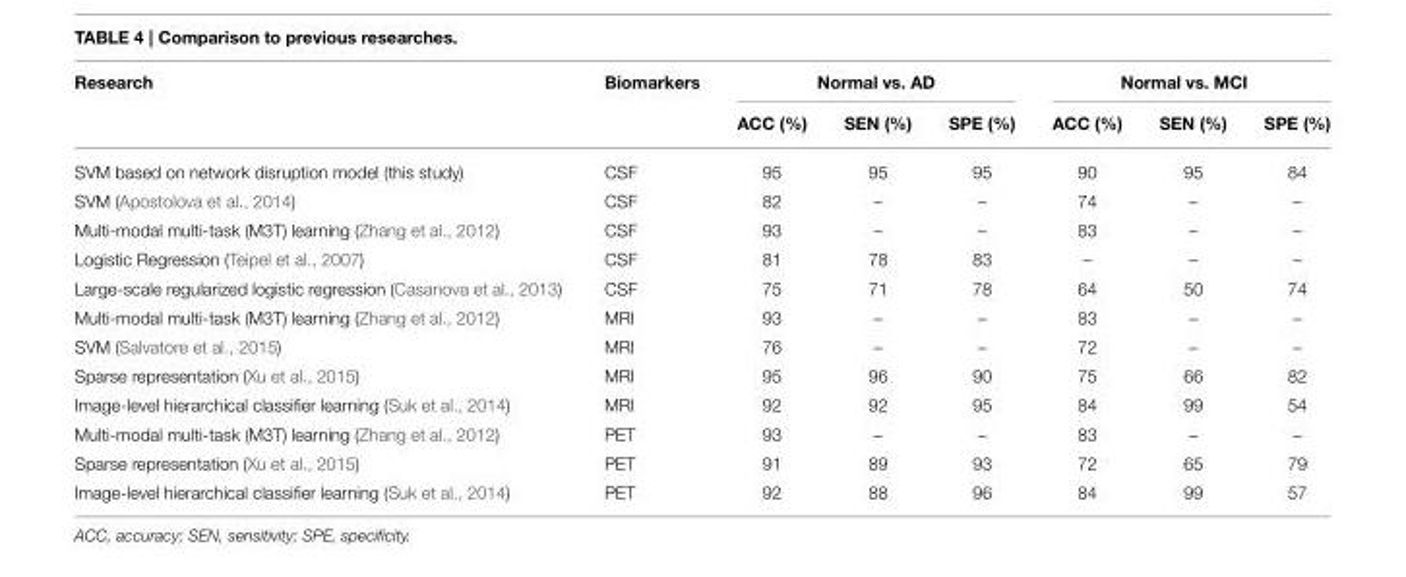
<table><thead><tr><td rowspan="2">Research</td><td rowspan="2">Biomarkers</td><td colspan="3">Normal vs. AD</td><td colspan="3">Normal vs. MCI</td></tr><tr><td>ACC (%)</td><td>SEN (%)</td><td>SPE (%)</td><td>ACC (%)</td><td>SEN (%)</td><td>SPE (%)</td></tr></thead><tbody><tr><td>SVM based on network disruption model (this study)</td><td>CSF</td><td>95</td><td>95</td><td>95</td><td>90</td><td>95</td><td>84</td></tr><tr><td>SVM (Apostolova et al., 2014)</td><td>CSF</td><td>82</td><td>–</td><td>–</td><td>74</td><td>–</td><td>–</td></tr><tr><td>Multi-modal multi-task (M3T) learning (Zhang et al., 2012)</td><td>CSF</td><td>93</td><td>–</td><td>–</td><td>83</td><td>–</td><td>–</td></tr><tr><td>Logistic Regression (Teipel et al., 2007)</td><td>CSF</td><td>81</td><td>78</td><td>83</td><td>–</td><td>–</td><td>–</td></tr><tr><td>Large-scale regularized logistic regression (Casanova et al., 2013)</td><td>CSF</td><td>75</td><td>71</td><td>78</td><td>64</td><td>50</td><td>74</td></tr><tr><td>Multi-modal multi-task (M3T) learning (Zhang et al., 2012)</td><td>MRI</td><td>93</td><td>–</td><td>–</td><td>83</td><td>–</td><td>–</td></tr><tr><td>SVM (Salvatore et al., 2015)</td><td>MRI</td><td>76</td><td>–</td><td>–</td><td>72</td><td>–</td><td>–</td></tr><tr><td>Sparse representation (Xu et al., 2015)</td><td>MRI</td><td>95</td><td>96</td><td>90</td><td>75</td><td>66</td><td>82</td></tr><tr><td>Image-level hierarchical classifier learning (Suk et al., 2014)</td><td>MRI</td><td>92</td><td>92</td><td>95</td><td>84</td><td>99</td><td>54</td></tr><tr><td>Multi-modal multi-task (M3T) learning (Zhang et al., 2012)</td><td>PET</td><td>93</td><td>–</td><td>–</td><td>83</td><td>–</td><td>–</td></tr><tr><td>Sparse representation (Xu et al., 2015)</td><td>PET</td><td>91</td><td>89</td><td>93</td><td>72</td><td>65</td><td>79</td></tr><tr><td>Image-level hierarchical classifier learning (Suk et al., 2014)</td><td>PET</td><td>92</td><td>88</td><td>96</td><td>84</td><td>99</td><td>57</td></tr></tbody></table>